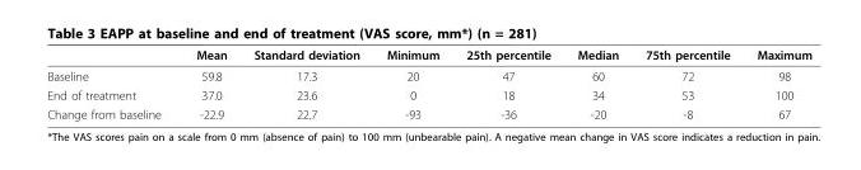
<table><thead><tr><td></td><td>Mean</td><td>Standard deviation</td><td>Minimum</td><td>25th percentile</td><td>Median</td><td>75th percentile</td><td>Maximum</td></tr></thead><tbody><tr><td>Baseline</td><td>59.8</td><td>17.3</td><td>20</td><td>47</td><td>60</td><td>72</td><td>98</td></tr><tr><td>End of treatment</td><td>37.0</td><td>23.6</td><td>0</td><td>18</td><td>34</td><td>53</td><td>100</td></tr><tr><td>Change from baseline</td><td>-22.9</td><td>22.7</td><td>-93</td><td>-36</td><td>-20</td><td>-8</td><td>67</td></tr></tbody></table>